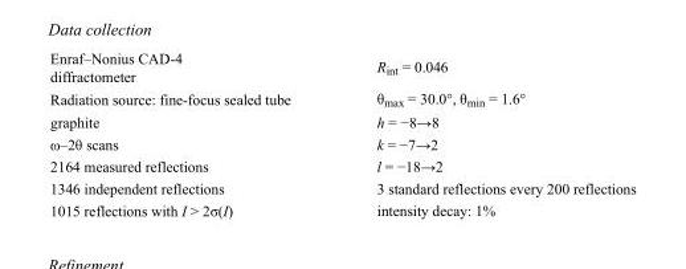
<table><tbody><tr><td>Enraf–Nonius CAD-4 diffractometer</td><td>R<sub>int</sub> = 0.046</td></tr><tr><td>Radiation source: fine-focus sealed tube</td><td>θ<sub>max</sub> = 30.0°, θ<sub>min</sub> = 1.6°</td></tr><tr><td>graphite</td><td>h = −8→8</td></tr><tr><td>ω–2θ scans</td><td>k = −7→2</td></tr><tr><td>2164 measured reflections</td><td>l = −18→2</td></tr><tr><td>1346 independent reflections</td><td>3 standard reflections every 200 reflections</td></tr><tr><td>1015 reflections with I &gt; 2σ(I)</td><td>intensity decay: 1%</td></tr></tbody></table>